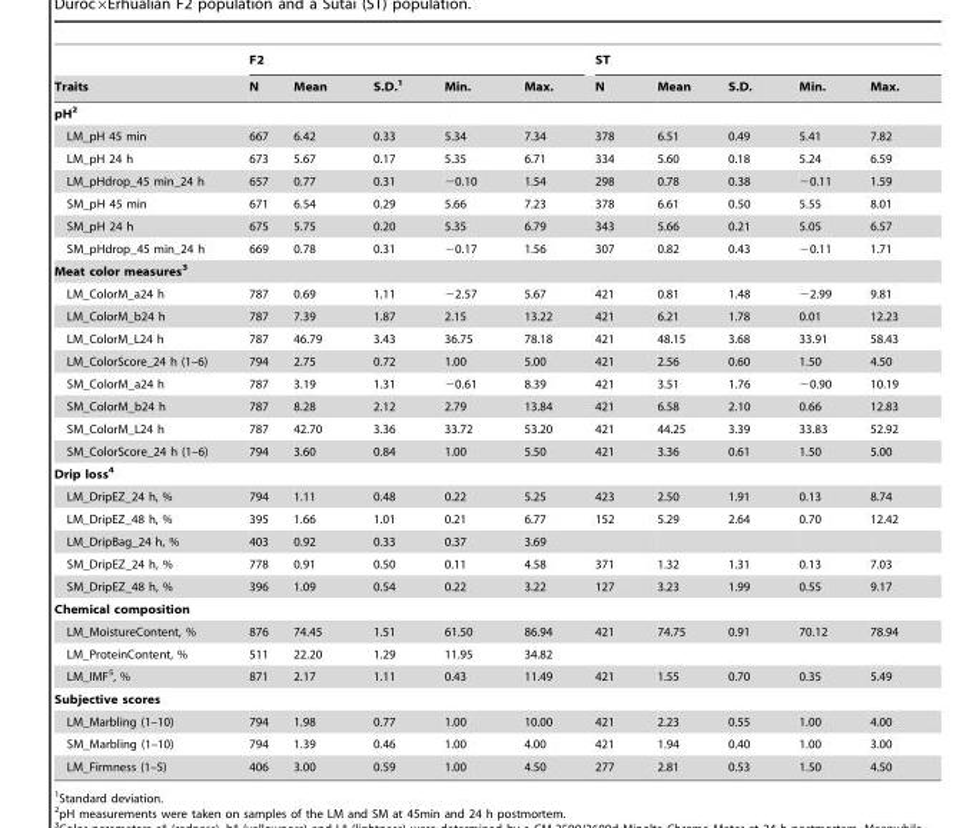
<table><thead><tr><td rowspan="2">Traits</td><td colspan="5">F2</td><td colspan="5">ST</td></tr><tr><td>N</td><td>Mean</td><td>S.D.<sup>1</sup></td><td>Min.</td><td>Max.</td><td>N</td><td>Mean</td><td>S.D.</td><td>Min.</td><td>Max.</td></tr></thead><tbody><tr><td colspan="11">pH2</td></tr><tr><td>LM_pH 45 min</td><td>667</td><td>6.42</td><td>0.33</td><td>5.34</td><td>7.34</td><td>378</td><td>6.51</td><td>0.49</td><td>5.41</td><td>7.82</td></tr><tr><td>LM_pH 24 h</td><td>673</td><td>5.67</td><td>0.17</td><td>5.35</td><td>6.71</td><td>334</td><td>5.60</td><td>0.18</td><td>5.24</td><td>6.59</td></tr><tr><td>LM_pHdrop_45 min_24 h</td><td>657</td><td>0.77</td><td>0.31</td><td>−0.10</td><td>1.54</td><td>298</td><td>0.78</td><td>0.38</td><td>−0.11</td><td>1.59</td></tr><tr><td>SM_pH 45 min</td><td>671</td><td>6.54</td><td>0.29</td><td>5.66</td><td>7.23</td><td>378</td><td>6.61</td><td>0.50</td><td>5.55</td><td>8.01</td></tr><tr><td>SM_pH 24 h</td><td>675</td><td>5.75</td><td>0.20</td><td>5.35</td><td>6.79</td><td>343</td><td>5.66</td><td>0.21</td><td>5.05</td><td>6.57</td></tr><tr><td>SM_pHdrop_45 min_24 h</td><td>669</td><td>0.78</td><td>0.31</td><td>−0.17</td><td>1.56</td><td>307</td><td>0.82</td><td>0.43</td><td>−0.11</td><td>1.71</td></tr><tr><td colspan="11">Meat color measures3</td></tr><tr><td>LM_ColorM_a24 h</td><td>787</td><td>0.69</td><td>1.11</td><td>−2.57</td><td>5.67</td><td>421</td><td>0.81</td><td>1.48</td><td>−2.99</td><td>9.81</td></tr><tr><td>LM_ColorM_b24 h</td><td>787</td><td>7.39</td><td>1.87</td><td>2.15</td><td>13.22</td><td>421</td><td>6.21</td><td>1.78</td><td>0.01</td><td>12.23</td></tr><tr><td>LM_ColorM_L24 h</td><td>787</td><td>46.79</td><td>3.43</td><td>36.75</td><td>78.18</td><td>421</td><td>48.15</td><td>3.68</td><td>33.91</td><td>58.43</td></tr><tr><td>LM_ColorScore_24 h (1–6)</td><td>794</td><td>2.75</td><td>0.72</td><td>1.00</td><td>5.00</td><td>421</td><td>2.56</td><td>0.60</td><td>1.50</td><td>4.50</td></tr><tr><td>SM_ColorM_a24 h</td><td>787</td><td>3.19</td><td>1.31</td><td>−0.61</td><td>8.39</td><td>421</td><td>3.51</td><td>1.76</td><td>−0.90</td><td>10.19</td></tr><tr><td>SM_ColorM_b24 h</td><td>787</td><td>8.28</td><td>2.12</td><td>2.79</td><td>13.84</td><td>421</td><td>6.58</td><td>2.10</td><td>0.66</td><td>12.83</td></tr><tr><td>SM_ColorM_L24 h</td><td>787</td><td>42.70</td><td>3.36</td><td>33.72</td><td>53.20</td><td>421</td><td>44.25</td><td>3.39</td><td>33.83</td><td>52.92</td></tr><tr><td>SM_ColorScore_24 h (1–6)</td><td>794</td><td>3.60</td><td>0.84</td><td>1.00</td><td>5.50</td><td>421</td><td>3.36</td><td>0.61</td><td>1.50</td><td>5.00</td></tr><tr><td colspan="11">Drip loss4</td></tr><tr><td>LM_DripEZ_24 h, %</td><td>794</td><td>1.11</td><td>0.48</td><td>0.22</td><td>5.25</td><td>423</td><td>2.50</td><td>1.91</td><td>0.13</td><td>8.74</td></tr><tr><td>LM_DripEZ_48 h, %</td><td>395</td><td>1.66</td><td>1.01</td><td>0.21</td><td>6.77</td><td>152</td><td>5.29</td><td>2.64</td><td>0.70</td><td>12.42</td></tr><tr><td>LM_DripBag_24 h, %</td><td>403</td><td>0.92</td><td>0.33</td><td>0.37</td><td>3.69</td><td></td><td></td><td></td><td></td><td></td></tr><tr><td>SM_DripEZ_24 h, %</td><td>778</td><td>0.91</td><td>0.50</td><td>0.11</td><td>4.58</td><td>371</td><td>1.32</td><td>1.31</td><td>0.13</td><td>7.03</td></tr><tr><td>SM_DripEZ_48 h, %</td><td>396</td><td>1.09</td><td>0.54</td><td>0.22</td><td>3.22</td><td>127</td><td>3.23</td><td>1.99</td><td>0.55</td><td>9.17</td></tr><tr><td colspan="11">Chemical composition</td></tr><tr><td>LM_MoistureContent, %</td><td>876</td><td>74.45</td><td>1.51</td><td>61.50</td><td>86.94</td><td>421</td><td>74.75</td><td>0.91</td><td>70.12</td><td>78.94</td></tr><tr><td>LM_ProteinContent, %</td><td>511</td><td>22.20</td><td>1.29</td><td>11.95</td><td>34.82</td><td></td><td></td><td></td><td></td><td></td></tr><tr><td>LM_IMF<sup>5</sup>, %</td><td>871</td><td>2.17</td><td>1.11</td><td>0.43</td><td>11.49</td><td>421</td><td>1.55</td><td>0.70</td><td>0.35</td><td>5.49</td></tr><tr><td colspan="11">Subjective scores</td></tr><tr><td>LM_Marbling (1–10)</td><td>794</td><td>1.98</td><td>0.77</td><td>1.00</td><td>10.00</td><td>421</td><td>2.23</td><td>0.55</td><td>1.00</td><td>4.00</td></tr><tr><td>SM_Marbling (1–10)</td><td>794</td><td>1.39</td><td>0.46</td><td>1.00</td><td>4.00</td><td>421</td><td>1.94</td><td>0.40</td><td>1.00</td><td>3.00</td></tr><tr><td>LM_Firmness (1–5)</td><td>406</td><td>3.00</td><td>0.59</td><td>1.00</td><td>4.50</td><td>277</td><td>2.81</td><td>0.53</td><td>1.50</td><td>4.50</td></tr></tbody></table>